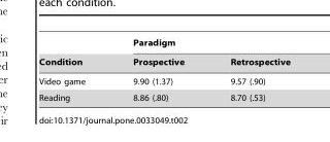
<table><thead><tr><td rowspan="2">Condition</td><td colspan="2">Paradigm</td></tr><tr><td>Prospective</td><td>Retrospective</td></tr></thead><tbody><tr><td>Video game</td><td>9.90 (1.37)</td><td>9.57 (.90)</td></tr><tr><td>Reading</td><td>8.86 (.80)</td><td>8.70 (.53)</td></tr></tbody></table>